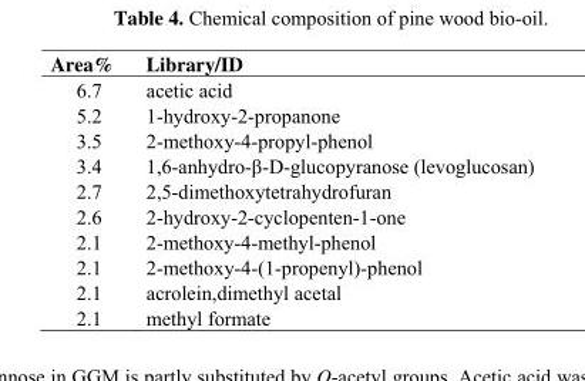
<table><thead><tr><td>Area%</td><td>Library/ID</td></tr></thead><tbody><tr><td>6.7</td><td>acetic acid</td></tr><tr><td>5.2</td><td>1-hydroxy-2-propanone</td></tr><tr><td>3.5</td><td>2-methoxy-4-propyl-phenol</td></tr><tr><td>3.4</td><td>1,6-anhydro-β-D-glucopyranose (levoglucosan)</td></tr><tr><td>2.7</td><td>2,5-dimethoxytetrahydrofuran</td></tr><tr><td>2.6</td><td>2-hydroxy-2-cyclopenten-1-one</td></tr><tr><td>2.1</td><td>2-methoxy-4-methyl-phenol</td></tr><tr><td>2.1</td><td>2-methoxy-4-(1-propenyl)-phenol</td></tr><tr><td>2.1</td><td>acrolein,dimethyl acetal</td></tr><tr><td>2.1</td><td>methyl formate</td></tr></tbody></table>